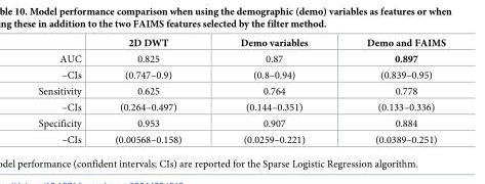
<table><thead><tr><td></td><td>2D DWT</td><td>Demo variables</td><td>Demo and FAIMS</td></tr></thead><tbody><tr><td>AUC</td><td>0.825</td><td>0.87</td><td>0.897</td></tr><tr><td>–CIs</td><td>(0.747–0.9)</td><td>(0.8–0.94)</td><td>(0.839–0.95)</td></tr><tr><td>Sensitivity</td><td>0.625</td><td>0.764</td><td>0.778</td></tr><tr><td>–CIs</td><td>(0.264–0.497)</td><td>(0.144–0.351)</td><td>(0.133–0.336)</td></tr><tr><td>Specificity</td><td>0.953</td><td>0.907</td><td>0.884</td></tr><tr><td>–CIs</td><td>(0.00568–0.158)</td><td>(0.0259–0.221)</td><td>(0.0389–0.251)</td></tr></tbody></table>